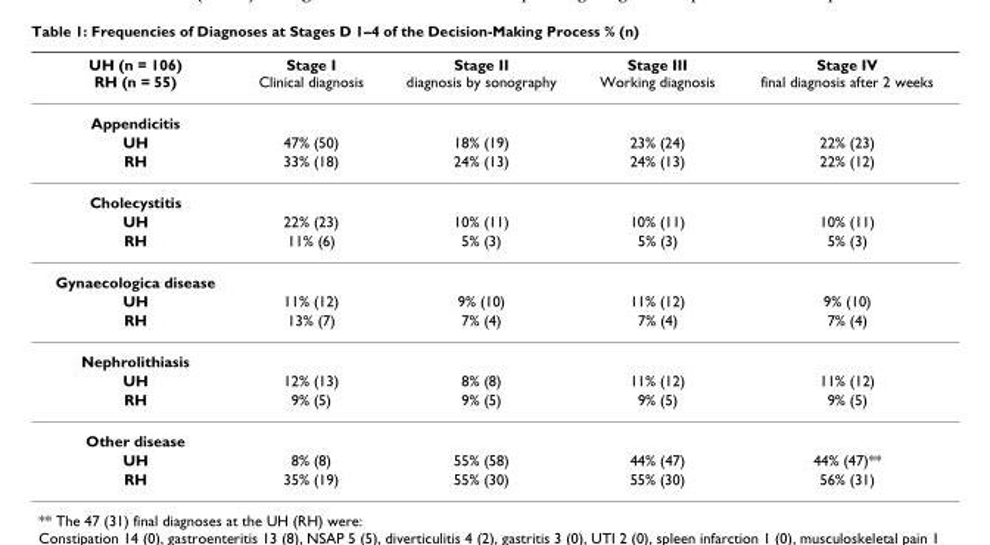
<table><thead><tr><td>UH (n = 106) RH (n = 55)</td><td>Stage I Clinical diagnosis</td><td>Stage II diagnosis by sonography</td><td>Stage III Working diagnosis</td><td>Stage IV final diagnosis after 2 weeks</td></tr></thead><tbody><tr><td colspan="5">Appendicitis</td></tr><tr><td>UH</td><td>47% (50)</td><td>18% (19)</td><td>23% (24)</td><td>22% (23)</td></tr><tr><td>RH</td><td>33% (18)</td><td>24% (13)</td><td>24% (13)</td><td>22% (12)</td></tr><tr><td colspan="5">Cholecystitis</td></tr><tr><td>UH</td><td>22% (23)</td><td>10% (11)</td><td>10% (11)</td><td>10% (11)</td></tr><tr><td>RH</td><td>11% (6)</td><td>5% (3)</td><td>5% (3)</td><td>5% (3)</td></tr><tr><td colspan="5">Gynaecologica disease</td></tr><tr><td>UH</td><td>11% (12)</td><td>9% (10)</td><td>11% (12)</td><td>9% (10)</td></tr><tr><td>RH</td><td>13% (7)</td><td>7% (4)</td><td>7% (4)</td><td>7% (4)</td></tr><tr><td colspan="5">Nephrolithiasis</td></tr><tr><td>UH</td><td>12% (13)</td><td>8% (8)</td><td>11% (12)</td><td>11% (12)</td></tr><tr><td>RH</td><td>9% (5)</td><td>9% (5)</td><td>9% (5)</td><td>9% (5)</td></tr><tr><td colspan="5">Other disease</td></tr><tr><td>UH</td><td>8% (8)</td><td>55% (58)</td><td>44% (47)</td><td>44% (47)**</td></tr><tr><td>RH</td><td>35% (19)</td><td>55% (30)</td><td>55% (30)</td><td>56% (31)</td></tr></tbody></table>